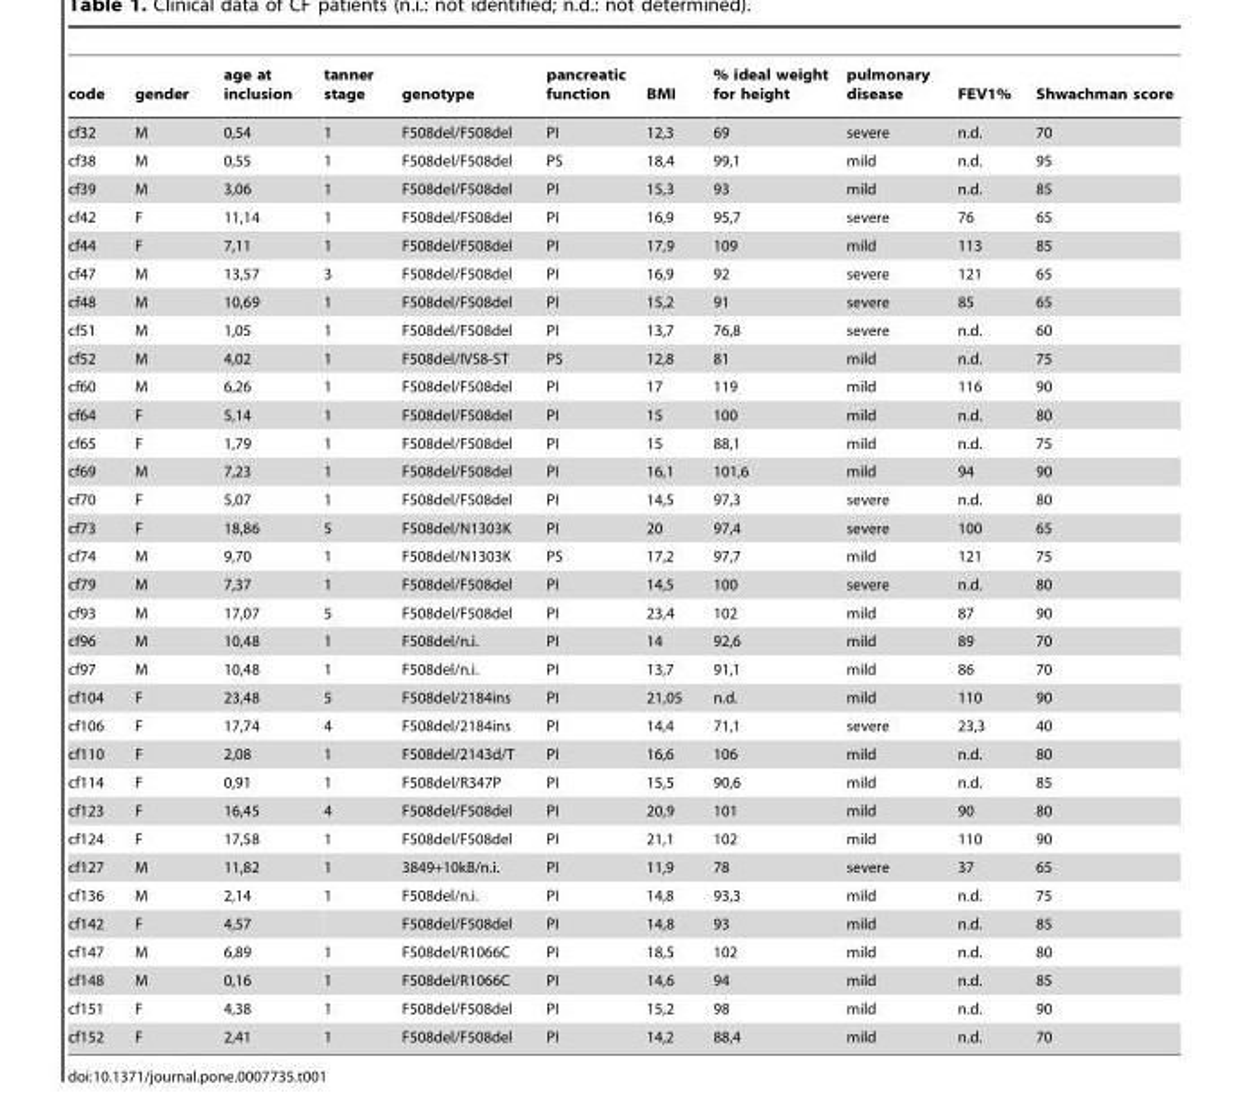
<table><thead><tr><td>code</td><td>gender</td><td>age at inclusion</td><td>tanner stage</td><td>genotype</td><td>pancreatic function</td><td>BMI</td><td>% ideal weight for height</td><td>pulmonary disease</td><td>FEV1%</td><td>Shwachman score</td></tr></thead><tbody><tr><td>cf32</td><td>M</td><td>0,54</td><td>1</td><td>F508del/F508del</td><td>PI</td><td>12,3</td><td>69</td><td>severe</td><td>n.d.</td><td>70</td></tr><tr><td>cf38</td><td>M</td><td>0,55</td><td>1</td><td>F508del/F508del</td><td>PS</td><td>18,4</td><td>99,1</td><td>mild</td><td>n.d.</td><td>95</td></tr><tr><td>cf39</td><td>M</td><td>3,06</td><td>1</td><td>F508del/F508del</td><td>PI</td><td>15,3</td><td>93</td><td>mild</td><td>n.d.</td><td>85</td></tr><tr><td>cf42</td><td>F</td><td>11,14</td><td>1</td><td>F508del/F508del</td><td>PI</td><td>16,9</td><td>95,7</td><td>severe</td><td>76</td><td>65</td></tr><tr><td>cf44</td><td>F</td><td>7,11</td><td>1</td><td>F508del/F508del</td><td>PI</td><td>17,9</td><td>109</td><td>mild</td><td>113</td><td>85</td></tr><tr><td>cf47</td><td>M</td><td>13,57</td><td>3</td><td>F508del/F508del</td><td>PI</td><td>16,9</td><td>92</td><td>severe</td><td>121</td><td>65</td></tr><tr><td>cf48</td><td>M</td><td>10,69</td><td>1</td><td>F508del/F508del</td><td>PI</td><td>15,2</td><td>91</td><td>severe</td><td>85</td><td>65</td></tr><tr><td>cf51</td><td>M</td><td>1,05</td><td>1</td><td>F508del/F508del</td><td>PI</td><td>13,7</td><td>76,8</td><td>severe</td><td>n.d.</td><td>60</td></tr><tr><td>cf52</td><td>M</td><td>4,02</td><td>1</td><td>F508del/IVS8-ST</td><td>PS</td><td>12,8</td><td>81</td><td>mild</td><td>n.d.</td><td>75</td></tr><tr><td>cf60</td><td>M</td><td>6,26</td><td>1</td><td>F508del/F508del</td><td>PI</td><td>17</td><td>119</td><td>mild</td><td>116</td><td>90</td></tr><tr><td>cf64</td><td>F</td><td>5,14</td><td>1</td><td>F508del/F508del</td><td>PI</td><td>15</td><td>100</td><td>mild</td><td>n.d.</td><td>80</td></tr><tr><td>cf65</td><td>F</td><td>1,79</td><td>1</td><td>F508del/F508del</td><td>PI</td><td>15</td><td>88,1</td><td>mild</td><td>n.d.</td><td>75</td></tr><tr><td>cf69</td><td>M</td><td>7,23</td><td>1</td><td>F508del/F508del</td><td>PI</td><td>16,1</td><td>101,6</td><td>mild</td><td>94</td><td>90</td></tr><tr><td>cf70</td><td>F</td><td>5,07</td><td>1</td><td>F508del/F508del</td><td>PI</td><td>14,5</td><td>97,3</td><td>severe</td><td>n.d.</td><td>80</td></tr><tr><td>cf73</td><td>F</td><td>18,86</td><td>5</td><td>F508del/N1303K</td><td>PI</td><td>20</td><td>97,4</td><td>severe</td><td>100</td><td>65</td></tr><tr><td>cf74</td><td>M</td><td>9,70</td><td>1</td><td>F508del/N1303K</td><td>PS</td><td>17,2</td><td>97,7</td><td>mild</td><td>121</td><td>75</td></tr><tr><td>cf79</td><td>M</td><td>7,37</td><td>1</td><td>F508del/F508del</td><td>PI</td><td>14,5</td><td>100</td><td>severe</td><td>n.d.</td><td>80</td></tr><tr><td>cf93</td><td>M</td><td>17,07</td><td>5</td><td>F508del/F508del</td><td>PI</td><td>23,4</td><td>102</td><td>mild</td><td>87</td><td>90</td></tr><tr><td>cf96</td><td>M</td><td>10,48</td><td>1</td><td>F508del/n.i.</td><td>PI</td><td>14</td><td>92,6</td><td>mild</td><td>89</td><td>70</td></tr><tr><td>cf97</td><td>M</td><td>10,48</td><td>1</td><td>F508del/n.i.</td><td>PI</td><td>13,7</td><td>91,1</td><td>mild</td><td>86</td><td>70</td></tr><tr><td>cf104</td><td>F</td><td>23,48</td><td>5</td><td>F508del/2184ins</td><td>PI</td><td>21,05</td><td>n.d.</td><td>mild</td><td>110</td><td>90</td></tr><tr><td>cf106</td><td>F</td><td>17,74</td><td>4</td><td>F508del/2184ins</td><td>PI</td><td>14,4</td><td>71,1</td><td>severe</td><td>23,3</td><td>40</td></tr><tr><td>cf110</td><td>F</td><td>2,08</td><td>1</td><td>F508del/2143d/T</td><td>PI</td><td>16,6</td><td>106</td><td>mild</td><td>n.d.</td><td>80</td></tr><tr><td>cf114</td><td>F</td><td>0,91</td><td>1</td><td>F508del/R347P</td><td>PI</td><td>15,5</td><td>90,6</td><td>mild</td><td>n.d.</td><td>85</td></tr><tr><td>cf123</td><td>F</td><td>16,45</td><td>4</td><td>F508del/F508del</td><td>PI</td><td>20,9</td><td>101</td><td>mild</td><td>90</td><td>80</td></tr><tr><td>cf124</td><td>F</td><td>17,58</td><td>1</td><td>F508del/F508del</td><td>PI</td><td>21,1</td><td>102</td><td>mild</td><td>110</td><td>90</td></tr><tr><td>cf127</td><td>M</td><td>11,82</td><td>1</td><td>3849+10kB/n.i.</td><td>PI</td><td>11,9</td><td>78</td><td>severe</td><td>37</td><td>65</td></tr><tr><td>cf136</td><td>M</td><td>2,14</td><td>1</td><td>F508del/n.i.</td><td>PI</td><td>14,8</td><td>93,3</td><td>mild</td><td>n.d.</td><td>75</td></tr><tr><td>cf142</td><td>F</td><td>4,57</td><td></td><td>F508del/F508del</td><td>PI</td><td>14,8</td><td>93</td><td>mild</td><td>n.d.</td><td>85</td></tr><tr><td>cf147</td><td>M</td><td>6,89</td><td>1</td><td>F508del/R1066C</td><td>PI</td><td>18,5</td><td>102</td><td>mild</td><td>n.d.</td><td>80</td></tr><tr><td>cf148</td><td>M</td><td>0,16</td><td>1</td><td>F508del/R1066C</td><td>PI</td><td>14,6</td><td>94</td><td>mild</td><td>n.d.</td><td>85</td></tr><tr><td>cf151</td><td>F</td><td>4,38</td><td>1</td><td>F508del/F508del</td><td>PI</td><td>15,2</td><td>98</td><td>mild</td><td>n.d.</td><td>90</td></tr><tr><td>cf152</td><td>F</td><td>2,41</td><td>1</td><td>F508del/F508del</td><td>PI</td><td>14,2</td><td>88,4</td><td>mild</td><td>n.d.</td><td>70</td></tr></tbody></table>